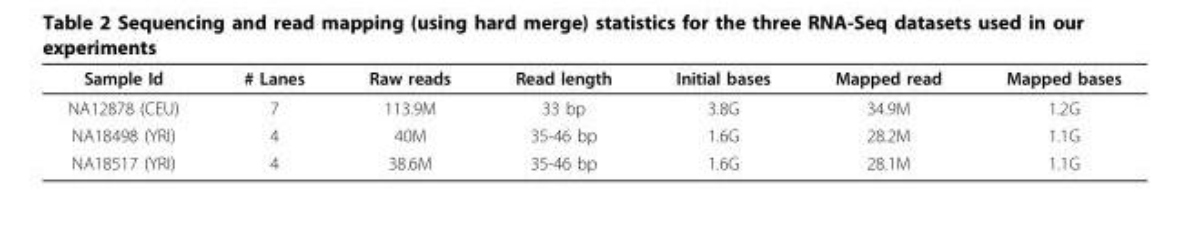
<table><thead><tr><td>Sample Id</td><td># Lanes</td><td>Raw reads</td><td>Read length</td><td>Initial bases</td><td>Mapped read</td><td>Mapped bases</td></tr></thead><tbody><tr><td>NA12878 (CEU)</td><td>7</td><td>113.9M</td><td>33 bp</td><td>3.8G</td><td>34.9M</td><td>1.2G</td></tr><tr><td>NA18498 (YRI)</td><td>4</td><td>40M</td><td>35-46 bp</td><td>1.6G</td><td>28.2M</td><td>1.1G</td></tr><tr><td>NA18517 (YRI)</td><td>4</td><td>38.6M</td><td>35-46 bp</td><td>1.6G</td><td>28.1M</td><td>1.1G</td></tr></tbody></table>